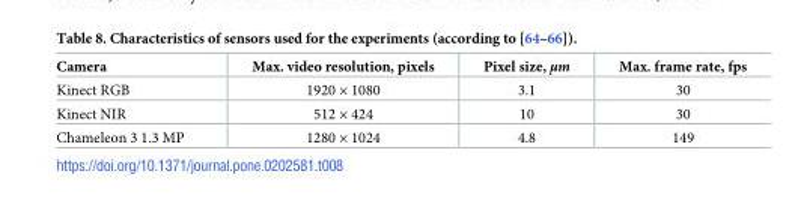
<table><thead><tr><td>Camera</td><td>Max. video resolution, pixels</td><td>Pixel size, μm</td><td>Max. frame rate, fps</td></tr></thead><tbody><tr><td>Kinect RGB</td><td>1920 × 1080</td><td>3.1</td><td>30</td></tr><tr><td>Kinect NIR</td><td>512 × 424</td><td>10</td><td>30</td></tr><tr><td>Chameleon 3 1.3 MP</td><td>1280 × 1024</td><td>4.8</td><td>149</td></tr></tbody></table>